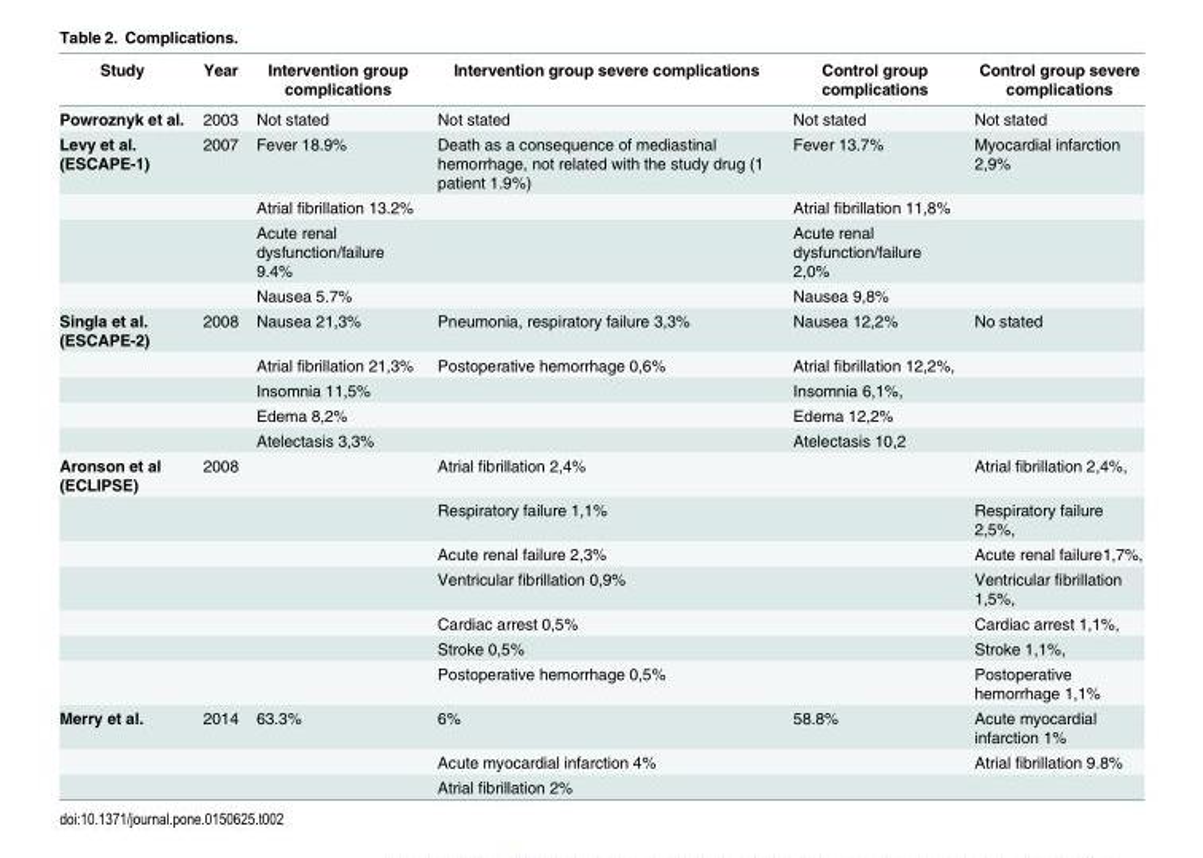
<table><thead><tr><td>Study</td><td>Year</td><td>Intervention group complications</td><td>Intervention group severe complications</td><td>Control group complications</td><td>Control group severe complications</td></tr></thead><tbody><tr><td>Powroznyk et al.</td><td>2003</td><td>Not stated</td><td>Not stated</td><td>Not stated</td><td>Not stated</td></tr><tr><td rowspan="4">Levy et al. (ESCAPE-1)</td><td>2007</td><td>Fever 18.9%</td><td>Death as a consequence of mediastinal hemorrhage, not related with the study drug (1 patient 1.9%)</td><td>Fever 13.7%</td><td>Myocardial infarction 2,9%</td></tr><tr><td></td><td>Atrial fibrillation 13.2%</td><td></td><td>Atrial fibrillation 11,8%</td><td></td></tr><tr><td></td><td>Acute renal dysfunction/failure 9.4%</td><td></td><td>Acute renal dysfunction/failure 2,0%</td><td></td></tr><tr><td></td><td>Nausea 5.7%</td><td></td><td>Nausea 9,8%</td><td></td></tr><tr><td rowspan="5">Singla et al. (ESCAPE-2)</td><td>2008</td><td>Nausea 21,3%</td><td>Pneumonia, respiratory failure 3,3%</td><td>Nausea 12,2%</td><td>No stated</td></tr><tr><td></td><td>Atrial fibrillation 21,3%</td><td>Postoperative hemorrhage 0,6%</td><td>Atrial fibrillation 12,2%,</td><td></td></tr><tr><td></td><td>Insomnia 11,5%</td><td></td><td>Insomnia 6,1%,</td><td></td></tr><tr><td></td><td>Edema 8,2%</td><td></td><td>Edema 12,2%</td><td></td></tr><tr><td></td><td>Atelectasis 3,3%</td><td></td><td>Atelectasis 10,2</td><td></td></tr><tr><td rowspan="7">Aronson et al (ECLIPSE)</td><td>2008</td><td></td><td>Atrial fibrillation 2,4%</td><td></td><td>Atrial fibrillation 2,4%,</td></tr><tr><td></td><td></td><td>Respiratory failure 1,1%</td><td></td><td>Respiratory failure 2,5%,</td></tr><tr><td></td><td></td><td>Acute renal failure 2,3%</td><td></td><td>Acute renal failure1,7%,</td></tr><tr><td></td><td></td><td>Ventricular fibrillation 0,9%</td><td></td><td>Ventricular fibrillation 1,5%,</td></tr><tr><td></td><td></td><td>Cardiac arrest 0,5%</td><td></td><td>Cardiac arrest 1,1%,</td></tr><tr><td></td><td></td><td>Stroke 0,5%</td><td></td><td>Stroke 1,1%,</td></tr><tr><td></td><td></td><td>Postoperative hemorrhage 0,5%</td><td></td><td>Postoperative hemorrhage 1,1%</td></tr><tr><td rowspan="3">Merry et al.</td><td>2014</td><td>63.3%</td><td>6%</td><td>58.8%</td><td>Acute myocardial infarction 1%</td></tr><tr><td></td><td></td><td>Acute myocardial infarction 4%</td><td></td><td>Atrial fibrillation 9.8%</td></tr><tr><td></td><td></td><td>Atrial fibrillation 2%</td><td></td><td></td></tr></tbody></table>